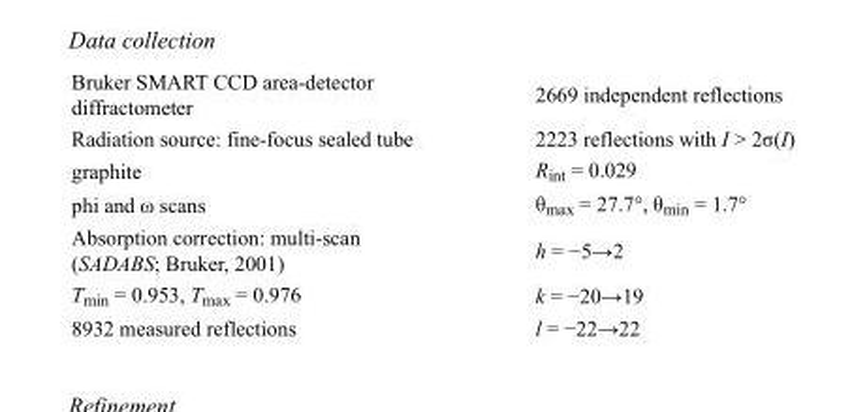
<table><tbody><tr><td>Bruker SMART CCD area-detector diffractometer</td><td>2669 independent reflections</td></tr><tr><td>Radiation source: fine-focus sealed tube</td><td>2223 reflections with I &gt; 2σ(I)</td></tr><tr><td>graphite</td><td>R<sub>int</sub> = 0.029</td></tr><tr><td>phi and ω scans</td><td>θ<sub>max</sub> = 27.7°, θ<sub>min</sub> = 1.7°</td></tr><tr><td>Absorption correction: multi-scan (SADABS; Bruker, 2001)</td><td>h = −5→2</td></tr><tr><td>T<sub>min</sub> = 0.953, T<sub>max</sub> = 0.976</td><td>k = −20→19</td></tr><tr><td>8932 measured reflections</td><td>l = −22→22</td></tr></tbody></table>